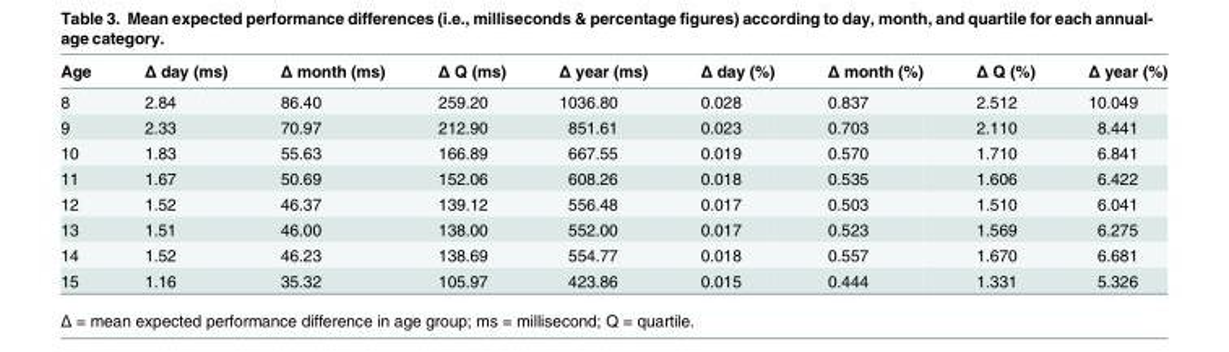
<table><thead><tr><td>Age</td><td>Δ day (ms)</td><td>Δ month (ms)</td><td>Δ Q (ms)</td><td>Δ year (ms)</td><td>Δ day (%)</td><td>Δ month (%)</td><td>Δ Q (%)</td><td>Δ year (%)</td></tr></thead><tbody><tr><td>8</td><td>2.84</td><td>86.40</td><td>259.20</td><td>1036.80</td><td>0.028</td><td>0.837</td><td>2.512</td><td>10.049</td></tr><tr><td>9</td><td>2.33</td><td>70.97</td><td>212.90</td><td>851.61</td><td>0.023</td><td>0.703</td><td>2.110</td><td>8.441</td></tr><tr><td>10</td><td>1.83</td><td>55.63</td><td>166.89</td><td>667.55</td><td>0.019</td><td>0.570</td><td>1.710</td><td>6.841</td></tr><tr><td>11</td><td>1.67</td><td>50.69</td><td>152.06</td><td>608.26</td><td>0.018</td><td>0.535</td><td>1.606</td><td>6.422</td></tr><tr><td>12</td><td>1.52</td><td>46.37</td><td>139.12</td><td>556.48</td><td>0.017</td><td>0.503</td><td>1.510</td><td>6.041</td></tr><tr><td>13</td><td>1.51</td><td>46.00</td><td>138.00</td><td>552.00</td><td>0.017</td><td>0.523</td><td>1.569</td><td>6.275</td></tr><tr><td>14</td><td>1.52</td><td>46.23</td><td>138.69</td><td>554.77</td><td>0.018</td><td>0.557</td><td>1.670</td><td>6.681</td></tr><tr><td>15</td><td>1.16</td><td>35.32</td><td>105.97</td><td>423.86</td><td>0.015</td><td>0.444</td><td>1.331</td><td>5.326</td></tr></tbody></table>